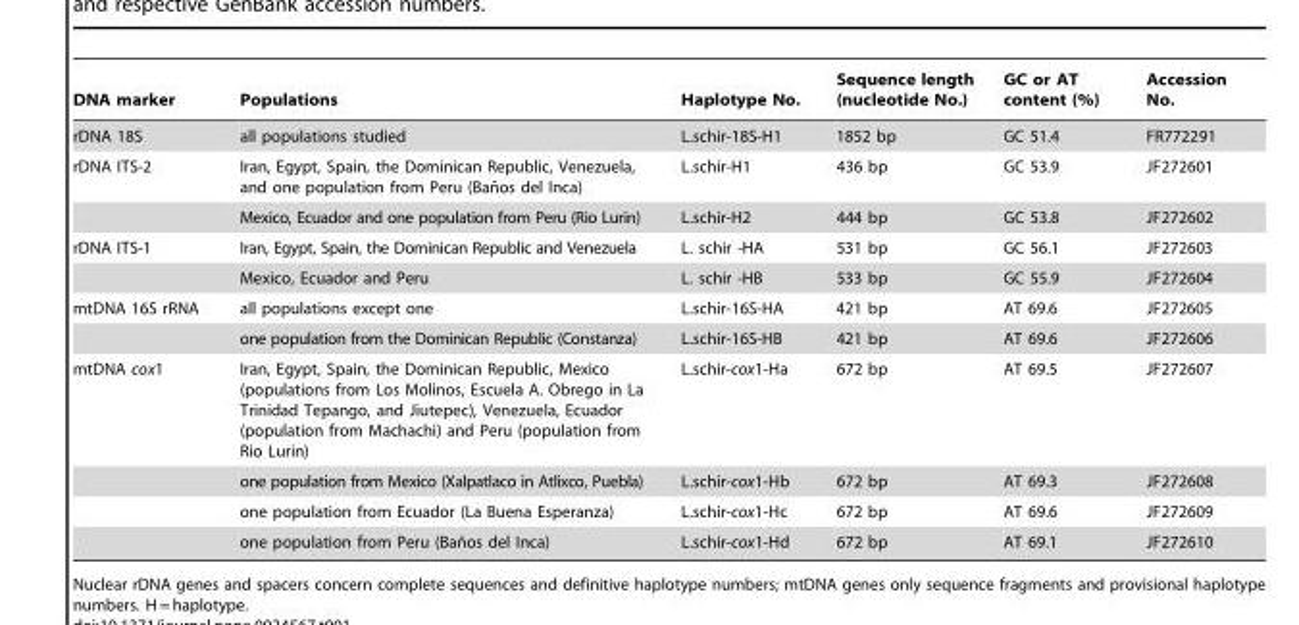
<table><thead><tr><td>DNA marker</td><td>Populations</td><td>Haplotype No.</td><td>Sequence length (nucleotide No.)</td><td>GC or AT content (%)</td><td>Accession No.</td></tr></thead><tbody><tr><td>rDNA 18S</td><td>all populations studied</td><td>L.schir-18S-H1</td><td>1852 bp</td><td>GC 51.4</td><td>FR772291</td></tr><tr><td rowspan="2">rDNA ITS-2</td><td>Iran, Egypt, Spain, the Dominican Republic, Venezuela, and one population from Peru (Ban˜os del Inca)</td><td>L.schir-H1</td><td>436 bp</td><td>GC 53.9</td><td>JF272601</td></tr><tr><td>Mexico, Ecuador and one population from Peru (Rio Lurin)</td><td>L.schir-H2</td><td>444 bp</td><td>GC 53.8</td><td>JF272602</td></tr><tr><td rowspan="2">rDNA ITS-1</td><td>Iran, Egypt, Spain, the Dominican Republic and Venezuela</td><td>L. schir -HA</td><td>531 bp</td><td>GC 56.1</td><td>JF272603</td></tr><tr><td>Mexico, Ecuador and Peru</td><td>L. schir -HB</td><td>533 bp</td><td>GC 55.9</td><td>JF272604</td></tr><tr><td rowspan="2">mtDNA 16S rRNA</td><td>all populations except one</td><td>L.schir-16S-HA</td><td>421 bp</td><td>AT 69.6</td><td>JF272605</td></tr><tr><td>one population from the Dominican Republic (Constanza)</td><td>L.schir-16S-HB</td><td>421 bp</td><td>AT 69.6</td><td>JF272606</td></tr><tr><td rowspan="4">mtDNA cox1</td><td>Iran, Egypt, Spain, the Dominican Republic, Mexico (populations from Los Molinos, Escuela A. Obrego in La Trinidad Tepango, and Jiutepec), Venezuela, Ecuador (population from Machachi) and Peru (population from Rio Lurin)</td><td>L.schir-cox1-Ha</td><td>672 bp</td><td>AT 69.5</td><td>JF272607</td></tr><tr><td>one population from Mexico (Xalpatlaco in Atlixco, Puebla)</td><td>L.schir-cox1-Hb</td><td>672 bp</td><td>AT 69.3</td><td>JF272608</td></tr><tr><td>one population from Ecuador (La Buena Esperanza)</td><td>L.schir-cox1-Hc</td><td>672 bp</td><td>AT 69.6</td><td>JF272609</td></tr><tr><td>one population from Peru (Ban˜os del Inca)</td><td>L.schir-cox1-Hd</td><td>672 bp</td><td>AT 69.1</td><td>JF272610</td></tr></tbody></table>